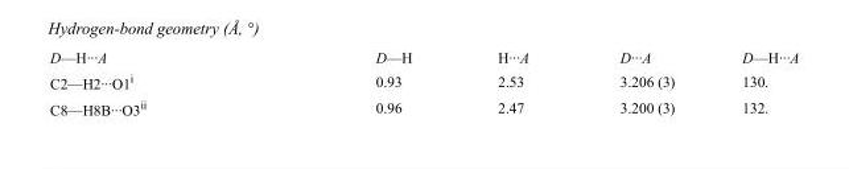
<table><tbody><tr><td>D—H···A</td><td>D—H</td><td>H···A</td><td>D···A</td><td>D—H···A</td></tr><tr><td>C2—H2···O1<sup>i</sup></td><td>0.93</td><td>2.53</td><td>3.206 (3)</td><td>130.</td></tr><tr><td>C8—H8B···O3<sup>ii</sup></td><td>0.96</td><td>2.47</td><td>3.200 (3)</td><td>132.</td></tr></tbody></table>